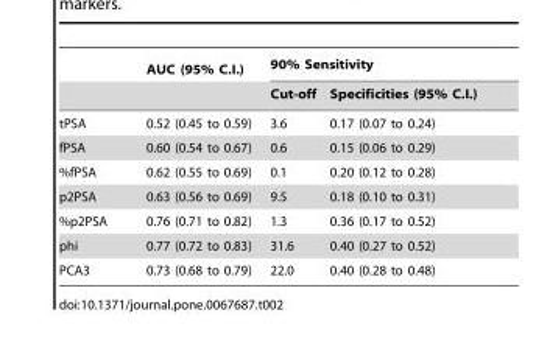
<table><thead><tr><td rowspan="2"></td><td rowspan="2">AUC (95% C.I.)</td><td colspan="2">90% Sensitivity</td></tr><tr><td>Cut-off</td><td>Specificities (95% C.I.)</td></tr></thead><tbody><tr><td>tPSA</td><td>0.52 (0.45 to 0.59)</td><td>3.6</td><td>0.17 (0.07 to 0.24)</td></tr><tr><td>fPSA</td><td>0.60 (0.54 to 0.67)</td><td>0.6</td><td>0.15 (0.06 to 0.29)</td></tr><tr><td>%fPSA</td><td>0.62 (0.55 to 0.69)</td><td>0.1</td><td>0.20 (0.12 to 0.28)</td></tr><tr><td>p2PSA</td><td>0.63 (0.56 to 0.69)</td><td>9.5</td><td>0.18 (0.10 to 0.31)</td></tr><tr><td>%p2PSA</td><td>0.76 (0.71 to 0.82)</td><td>1.3</td><td>0.36 (0.17 to 0.52)</td></tr><tr><td>phi</td><td>0.77 (0.72 to 0.83)</td><td>31.6</td><td>0.40 (0.27 to 0.52)</td></tr><tr><td>PCA3</td><td>0.73 (0.68 to 0.79)</td><td>22.0</td><td>0.40 (0.28 to 0.48)</td></tr></tbody></table>